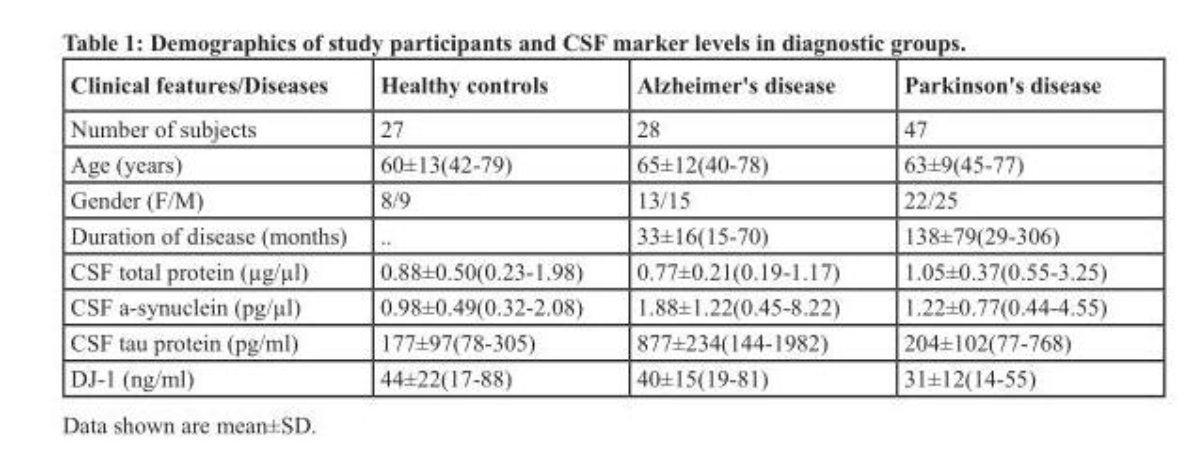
<table><thead><tr><td>Clinical features/Diseases</td><td>Healthy controls</td><td>Alzheimer&#x27;s disease</td><td>Parkinson&#x27;s disease</td></tr></thead><tbody><tr><td>Number of subjects</td><td>27</td><td>28</td><td>47</td></tr><tr><td>Age (years)</td><td>60±13(42-79)</td><td>65±12(40-78)</td><td>63±9(45-77)</td></tr><tr><td>Gender (F/M)</td><td>8/9</td><td>13/15</td><td>22/25</td></tr><tr><td>Duration of disease (months)</td><td>..</td><td>33±16(15-70)</td><td>138±79(29-306)</td></tr><tr><td>CSF total protein (µg/µl)</td><td>0.88±0.50(0.23-1.98)</td><td>0.77±0.21(0.19-1.17)</td><td>1.05±0.37(0.55-3.25)</td></tr><tr><td>CSF a-synuclein (pg/µl)</td><td>0.98±0.49(0.32-2.08)</td><td>1.88±1.22(0.45-8.22)</td><td>1.22±0.77(0.44-4.55)</td></tr><tr><td>CSF tau protein (pg/ml)</td><td>177±97(78-305)</td><td>877±234(144-1982)</td><td>204±102(77-768)</td></tr><tr><td>DJ-1 (ng/ml)</td><td>44±22(17-88)</td><td>40±15(19-81)</td><td>31±12(14-55)</td></tr></tbody></table>